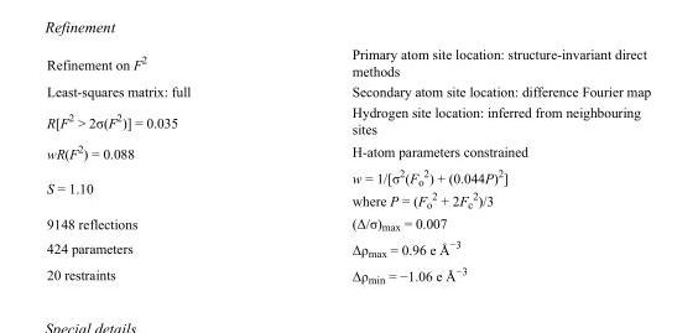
<table><tbody><tr><td>Refinement on F<sup>2</sup></td><td>Primary atom site location: structure-invariant direct methods</td></tr><tr><td>Least-squares matrix: full</td><td>Secondary atom site location: difference Fourier map</td></tr><tr><td>R[F<sup>2</sup> &gt; 2σ(F<sup>2</sup>)] = 0.035</td><td>Hydrogen site location: inferred from neighbouring sites</td></tr><tr><td>wR(F<sup>2</sup>) = 0.088</td><td>H-atom parameters constrained</td></tr><tr><td>S = 1.10</td><td>w = 1/[σ<sup>2</sup>(F<sub>o</sub> <sup>2</sup>) + (0.044P)<sup>2</sup>] where P = (F<sub>o</sub> <sup>2</sup> + 2F<sub>c</sub> <sup>2</sup>)/3</td></tr><tr><td>9148 reflections</td><td>(Δ/σ)<sub>max</sub> = 0.007</td></tr><tr><td>424 parameters</td><td>Δρ<sub>max</sub> = 0.96 e Å<sup>−3</sup></td></tr><tr><td>20 restraints</td><td>Δρ<sub>min</sub> = −1.06 e Å<sup>−3</sup></td></tr></tbody></table>